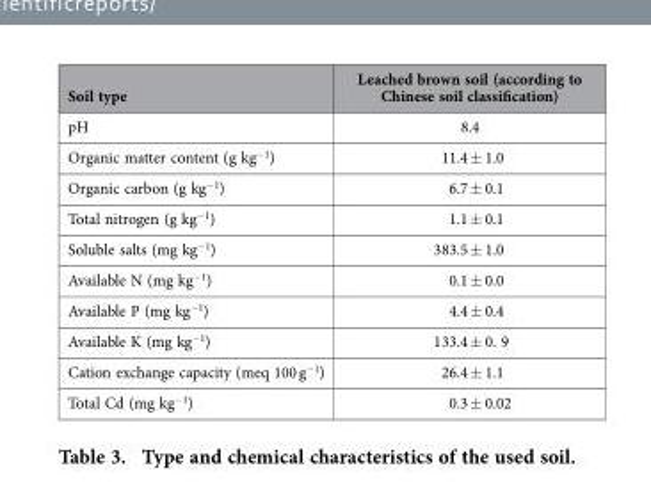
<table><thead><tr><td>Soil type</td><td>Leached brown soil (according to Chinese soil classification)</td></tr></thead><tbody><tr><td>pH</td><td>8.4</td></tr><tr><td>Organic matter content (g kg<sup>−1</sup>)</td><td>11.4 ± 1.0</td></tr><tr><td>Organic carbon (g kg<sup>−1</sup>)</td><td>6.7 ± 0.1</td></tr><tr><td>Total nitrogen (g kg<sup>−1</sup>)</td><td>1.1 ± 0.1</td></tr><tr><td>Soluble salts (mg kg<sup>−1</sup>)</td><td>383.5 ± 1.0</td></tr><tr><td>Available N (mg kg<sup>−1</sup>)</td><td>0.1 ± 0.0</td></tr><tr><td>Available P (mg kg<sup>−1</sup>)</td><td>4.4 ± 0.4</td></tr><tr><td>Available K (mg kg<sup>−1</sup>)</td><td>133.4 ± 0. 9</td></tr><tr><td>Cation exchange capacity (meq 100 g<sup>−1</sup>)</td><td>26.4 ± 1.1</td></tr><tr><td>Total Cd (mg kg<sup>−1</sup>)</td><td>0.3 ± 0.02</td></tr></tbody></table>